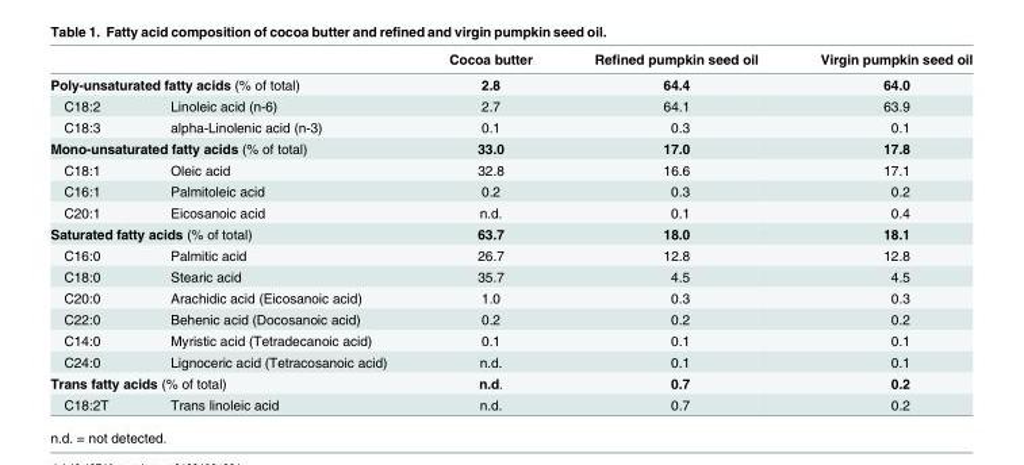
<table><thead><tr><td></td><td></td><td>Cocoa butter</td><td>Refined pumpkin seed oil</td><td>Virgin pumpkin seed oil</td></tr></thead><tbody><tr><td colspan="2">Poly-unsaturated fatty acids (% of total)</td><td>2.8</td><td>64.4</td><td>64.0</td></tr><tr><td>C18:2</td><td>Linoleic acid (n-6)</td><td>2.7</td><td>64.1</td><td>63.9</td></tr><tr><td>C18:3</td><td>alpha-Linolenic acid (n-3)</td><td>0.1</td><td>0.3</td><td>0.1</td></tr><tr><td colspan="2">Mono-unsaturated fatty acids (% of total)</td><td>33.0</td><td>17.0</td><td>17.8</td></tr><tr><td>C18:1</td><td>Oleic acid</td><td>32.8</td><td>16.6</td><td>17.1</td></tr><tr><td>C16:1</td><td>Palmitoleic acid</td><td>0.2</td><td>0.3</td><td>0.2</td></tr><tr><td>C20:1</td><td>Eicosanoic acid</td><td>n.d.</td><td>0.1</td><td>0.4</td></tr><tr><td colspan="2">Saturated fatty acids (% of total)</td><td>63.7</td><td>18.0</td><td>18.1</td></tr><tr><td>C16:0</td><td>Palmitic acid</td><td>26.7</td><td>12.8</td><td>12.8</td></tr><tr><td>C18:0</td><td>Stearic acid</td><td>35.7</td><td>4.5</td><td>4.5</td></tr><tr><td>C20:0</td><td>Arachidic acid (Eicosanoic acid)</td><td>1.0</td><td>0.3</td><td>0.3</td></tr><tr><td>C22:0</td><td>Behenic acid (Docosanoic acid)</td><td>0.2</td><td>0.2</td><td>0.2</td></tr><tr><td>C14:0</td><td>Myristic acid (Tetradecanoic acid)</td><td>0.1</td><td>0.1</td><td>0.1</td></tr><tr><td>C24:0</td><td>Lignoceric acid (Tetracosanoic acid)</td><td>n.d.</td><td>0.1</td><td>0.1</td></tr><tr><td colspan="2">Trans fatty acids (% of total)</td><td>n.d.</td><td>0.7</td><td>0.2</td></tr><tr><td>C18:2T</td><td>Trans linoleic acid</td><td>n.d.</td><td>0.7</td><td>0.2</td></tr></tbody></table>